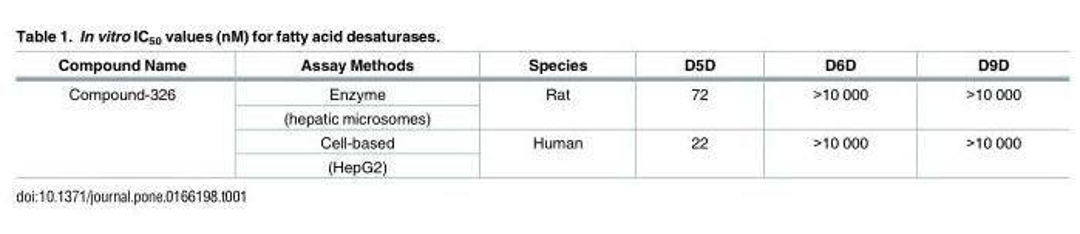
<table><thead><tr><td>Compound Name</td><td>Assay Methods</td><td>Species</td><td>D5D</td><td>D6D</td><td>D9D</td></tr></thead><tbody><tr><td rowspan="4">Compound-326</td><td>Enzyme</td><td rowspan="2">Rat</td><td rowspan="2">72</td><td rowspan="2">&gt;10 000</td><td rowspan="2">&gt;10 000</td></tr><tr><td>(hepatic microsomes)</td></tr><tr><td>Cell-based</td><td rowspan="2">Human</td><td rowspan="2">22</td><td rowspan="2">&gt;10 000</td><td rowspan="2">&gt;10 000</td></tr><tr><td>(HepG2)</td></tr></tbody></table>